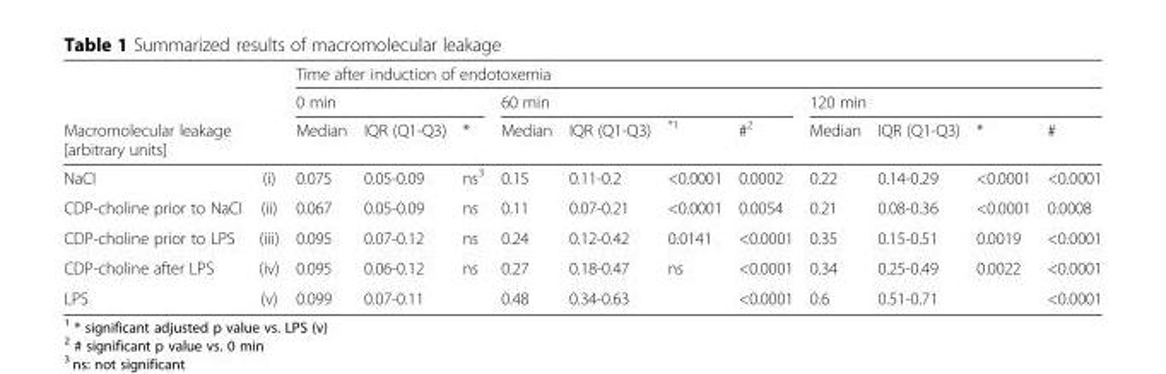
<table><thead><tr><td rowspan="2"></td><td rowspan="2"></td><td colspan="11">Time after induction of endotoxemia</td></tr><tr><td colspan="3">0 min</td><td colspan="4">60 min</td><td colspan="4">120 min</td></tr><tr><td colspan="2">Macromolecular leakage [arbitrary units]</td><td>Median</td><td>IQR (Q1-Q3)</td><td>*</td><td>Median</td><td>IQR (Q1-Q3)</td><td><sup>*1</sup></td><td>#<sup>2</sup></td><td>Median</td><td>IQR (Q1-Q3)</td><td>*</td><td>#</td></tr></thead><tbody><tr><td>NaCI</td><td>(i)</td><td>0.075</td><td>0.05-0.09</td><td>ns<sup>3</sup></td><td>0.15</td><td>0.11-0.2</td><td>&lt;0.0001</td><td>0.0002</td><td>0.22</td><td>0.14-0.29</td><td>&lt;0.0001</td><td>&lt;0.0001</td></tr><tr><td>CDP-choline prior to NaCI</td><td>(ii)</td><td>0.067</td><td>0.05-0.09</td><td>ns</td><td>0.11</td><td>0.07-0.21</td><td>&lt;0.0001</td><td>0.0054</td><td>0.21</td><td>0.08-0.36</td><td>&lt;0.0001</td><td>0.0008</td></tr><tr><td>CDP-choline prior to LPS</td><td>(iii)</td><td>0.095</td><td>0.07-0.12</td><td>ns</td><td>0.24</td><td>0.12-0.42</td><td>0.0141</td><td>&lt;0.0001</td><td>0.35</td><td>0.15-0.51</td><td>0.0019</td><td>&lt;0.0001</td></tr><tr><td>CDP-choline after LPS</td><td>(iv)</td><td>0.095</td><td>0.06-0.12</td><td>ns</td><td>0.27</td><td>0.18-0.47</td><td>ns</td><td>&lt;0.0001</td><td>0.34</td><td>0.25-0.49</td><td>0.0022</td><td>&lt;0.0001</td></tr><tr><td>LPS</td><td>(v)</td><td>0.099</td><td>0.07-0.11</td><td></td><td>0.48</td><td>0.34-0.63</td><td></td><td>&lt;0.0001</td><td>0.6</td><td>0.51-0.71</td><td></td><td>&lt;0.0001</td></tr></tbody></table>